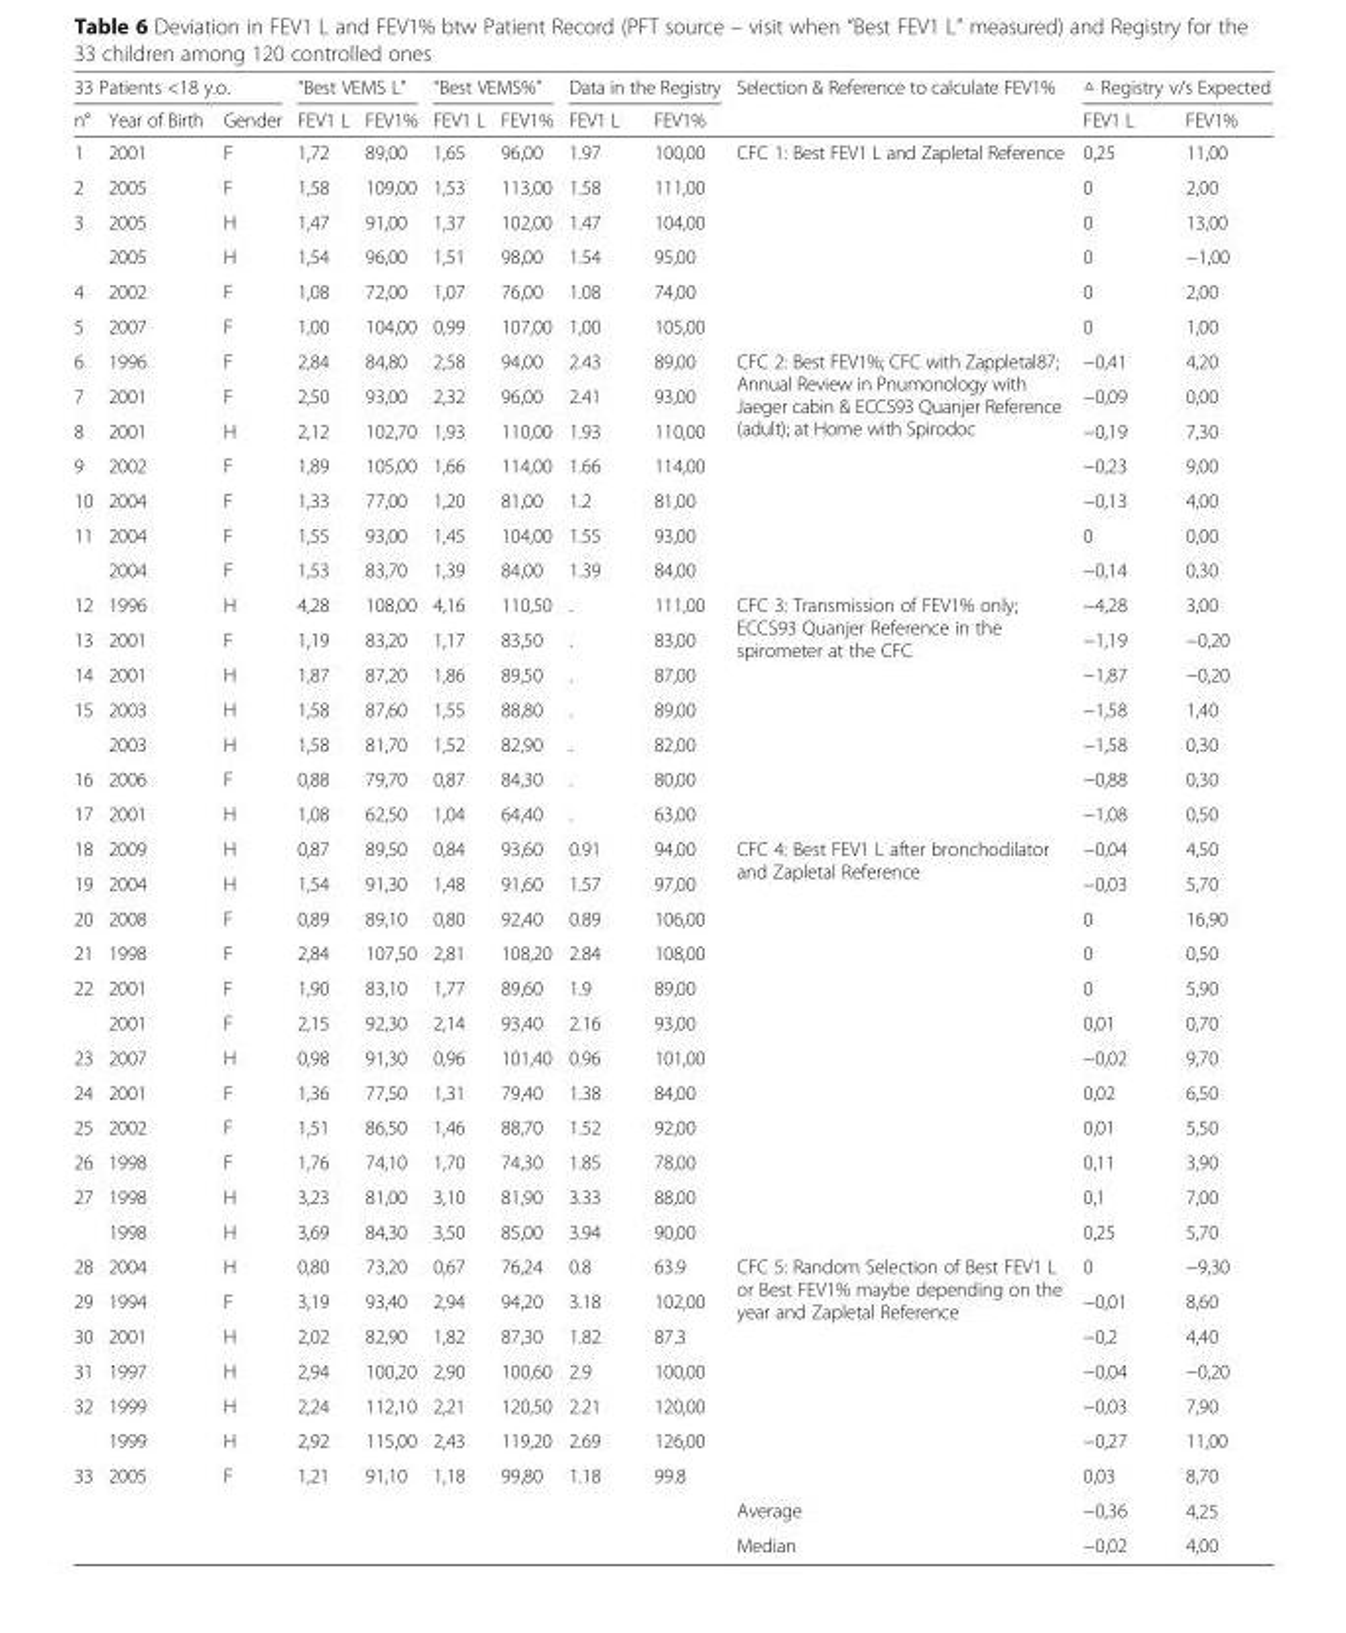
<table><thead><tr><td colspan="3">33 Patients &lt;18 y.o.</td><td colspan="2">“Best VEMS L”</td><td colspan="2">“Best VEMS%”</td><td colspan="2">Data in the Registry</td><td rowspan="2">Selection &amp; Reference to calculate FEV1%</td><td colspan="2">△ Registry v/s Expected</td></tr><tr><td>n°</td><td>Year of Birth</td><td>Gender</td><td>FEV1 L</td><td>FEV1%</td><td>FEV1 L</td><td>FEV1%</td><td>FEV1 L</td><td>FEV1%</td><td>FEV1 L</td><td>FEV1%</td></tr></thead><tbody><tr><td>1</td><td>2001</td><td>F</td><td>1,72</td><td>89,00</td><td>1,65</td><td>96,00</td><td>1.97</td><td>100,00</td><td rowspan="6">CFC 1: Best FEV1 L and Zapletal Reference</td><td>0,25</td><td>11,00</td></tr><tr><td>2</td><td>2005</td><td>F</td><td>1,58</td><td>109,00</td><td>1,53</td><td>113,00</td><td>1.58</td><td>111,00</td><td>0</td><td>2,00</td></tr><tr><td rowspan="2">3</td><td>2005</td><td>H</td><td>1,47</td><td>91,00</td><td>1,37</td><td>102,00</td><td>1.47</td><td>104,00</td><td>0</td><td>13,00</td></tr><tr><td>2005</td><td>H</td><td>1,54</td><td>96,00</td><td>1,51</td><td>98,00</td><td>1.54</td><td>95,00</td><td>0</td><td>−1,00</td></tr><tr><td>4</td><td>2002</td><td>F</td><td>1,08</td><td>72,00</td><td>1,07</td><td>76,00</td><td>1.08</td><td>74,00</td><td>0</td><td>2,00</td></tr><tr><td>5</td><td>2007</td><td>F</td><td>1,00</td><td>104,00</td><td>0,99</td><td>107,00</td><td>1,00</td><td>105,00</td><td>0</td><td>1,00</td></tr><tr><td>6</td><td>1996</td><td>F</td><td>2,84</td><td>84,80</td><td>2,58</td><td>94,00</td><td>2.43</td><td>89,00</td><td rowspan="7">CFC 2: Best FEV1%; CFC with Zappletal87; Annual Review in Pnumonology with Jaeger cabin &amp; ECCS93 Quanjer Reference (adult); at Home with Spirodoc</td><td>−0,41</td><td>4,20</td></tr><tr><td>7</td><td>2001</td><td>F</td><td>2,50</td><td>93,00</td><td>2,32</td><td>96,00</td><td>2.41</td><td>93,00</td><td>−0,09</td><td>0,00</td></tr><tr><td>8</td><td>2001</td><td>H</td><td>2,12</td><td>102,70</td><td>1,93</td><td>110,00</td><td>1.93</td><td>110,00</td><td>−0,19</td><td>7,30</td></tr><tr><td>9</td><td>2002</td><td>F</td><td>1,89</td><td>105,00</td><td>1,66</td><td>114,00</td><td>1.66</td><td>114,00</td><td>−0,23</td><td>9,00</td></tr><tr><td>10</td><td>2004</td><td>F</td><td>1,33</td><td>77,00</td><td>1,20</td><td>81,00</td><td>1.2</td><td>81,00</td><td>−0,13</td><td>4,00</td></tr><tr><td rowspan="2">11</td><td>2004</td><td>F</td><td>1,55</td><td>93,00</td><td>1,45</td><td>104,00</td><td>1.55</td><td>93,00</td><td>0</td><td>0,00</td></tr><tr><td>2004</td><td>F</td><td>1,53</td><td>83,70</td><td>1,39</td><td>84,00</td><td>1.39</td><td>84,00</td><td>−0,14</td><td>0,30</td></tr><tr><td>12</td><td>1996</td><td>H</td><td>4,28</td><td>108,00</td><td>4,16</td><td>110,50</td><td>.</td><td>111,00</td><td rowspan="7">CFC 3: Transmission of FEV1% only; ECCS93 Quanjer Reference in the spirometer at the CFC</td><td>−4,28</td><td>3,00</td></tr><tr><td>13</td><td>2001</td><td>F</td><td>1,19</td><td>83,20</td><td>1,17</td><td>83,50</td><td>.</td><td>83,00</td><td>−1,19</td><td>−0,20</td></tr><tr><td>14</td><td>2001</td><td>H</td><td>1,87</td><td>87,20</td><td>1,86</td><td>89,50</td><td>.</td><td>87,00</td><td>−1,87</td><td>−0,20</td></tr><tr><td rowspan="2">15</td><td>2003</td><td>H</td><td>1,58</td><td>87,60</td><td>1,55</td><td>88,80</td><td>.</td><td>89,00</td><td>−1,58</td><td>1,40</td></tr><tr><td>2003</td><td>H</td><td>1,58</td><td>81,70</td><td>1,52</td><td>82,90</td><td>.</td><td>82,00</td><td>−1,58</td><td>0,30</td></tr><tr><td>16</td><td>2006</td><td>F</td><td>0,88</td><td>79,70</td><td>0,87</td><td>84,30</td><td>.</td><td>80,00</td><td>−0,88</td><td>0,30</td></tr><tr><td>17</td><td>2001</td><td>H</td><td>1,08</td><td>62,50</td><td>1,04</td><td>64,40</td><td>.</td><td>63,00</td><td>−1,08</td><td>0,50</td></tr><tr><td>18</td><td>2009</td><td>H</td><td>0,87</td><td>89,50</td><td>0,84</td><td>93,60</td><td>0.91</td><td>94,00</td><td rowspan="12">CFC 4: Best FEV1 L after bronchodilator and Zapletal Reference</td><td>−0,04</td><td>4,50</td></tr><tr><td>19</td><td>2004</td><td>H</td><td>1,54</td><td>91,30</td><td>1,48</td><td>91,60</td><td>1.57</td><td>97,00</td><td>−0,03</td><td>5,70</td></tr><tr><td>20</td><td>2008</td><td>F</td><td>0,89</td><td>89,10</td><td>0,80</td><td>92,40</td><td>0.89</td><td>106,00</td><td>0</td><td>16,90</td></tr><tr><td>21</td><td>1998</td><td>F</td><td>2,84</td><td>107,50</td><td>2,81</td><td>108,20</td><td>2.84</td><td>108,00</td><td>0</td><td>0,50</td></tr><tr><td rowspan="2">22</td><td>2001</td><td>F</td><td>1,90</td><td>83,10</td><td>1,77</td><td>89,60</td><td>1.9</td><td>89,00</td><td>0</td><td>5,90</td></tr><tr><td>2001</td><td>F</td><td>2,15</td><td>92,30</td><td>2,14</td><td>93,40</td><td>2.16</td><td>93,00</td><td>0,01</td><td>0,70</td></tr><tr><td>23</td><td>2007</td><td>H</td><td>0,98</td><td>91,30</td><td>0,96</td><td>101,40</td><td>0.96</td><td>101,00</td><td>−0,02</td><td>9,70</td></tr><tr><td>24</td><td>2001</td><td>F</td><td>1,36</td><td>77,50</td><td>1,31</td><td>79,40</td><td>1.38</td><td>84,00</td><td>0,02</td><td>6,50</td></tr><tr><td>25</td><td>2002</td><td>F</td><td>1,51</td><td>86,50</td><td>1,46</td><td>88,70</td><td>1.52</td><td>92,00</td><td>0,01</td><td>5,50</td></tr><tr><td>26</td><td>1998</td><td>F</td><td>1,76</td><td>74,10</td><td>1,70</td><td>74,30</td><td>1.85</td><td>78,00</td><td>0,11</td><td>3,90</td></tr><tr><td rowspan="2">27</td><td>1998</td><td>H</td><td>3,23</td><td>81,00</td><td>3,10</td><td>81,90</td><td>3.33</td><td>88,00</td><td>0,1</td><td>7,00</td></tr><tr><td>1998</td><td>H</td><td>3,69</td><td>84,30</td><td>3,50</td><td>85,00</td><td>3.94</td><td>90,00</td><td>0,25</td><td>5,70</td></tr><tr><td>28</td><td>2004</td><td>H</td><td>0,80</td><td>73,20</td><td>0,67</td><td>76,24</td><td>0.8</td><td>63.9</td><td rowspan="7">CFC 5: Random Selection of Best FEV1 L or Best FEV1% maybe depending on the year and Zapletal Reference</td><td>0</td><td>−9,30</td></tr><tr><td>29</td><td>1994</td><td>F</td><td>3,19</td><td>93,40</td><td>2,94</td><td>94,20</td><td>3.18</td><td>102,00</td><td>−0,01</td><td>8,60</td></tr><tr><td>30</td><td>2001</td><td>H</td><td>2,02</td><td>82,90</td><td>1,82</td><td>87,30</td><td>1.82</td><td>87.3</td><td>−0,2</td><td>4,40</td></tr><tr><td>31</td><td>1997</td><td>H</td><td>2,94</td><td>100,20</td><td>2,90</td><td>100,60</td><td>2.9</td><td>100,00</td><td>−0,04</td><td>−0,20</td></tr><tr><td rowspan="2">32</td><td>1999</td><td>H</td><td>2,24</td><td>112,10</td><td>2,21</td><td>120,50</td><td>2.21</td><td>120,00</td><td>−0,03</td><td>7,90</td></tr><tr><td>1999</td><td>H</td><td>2,92</td><td>115,00</td><td>2,43</td><td>119,20</td><td>2.69</td><td>126,00</td><td>−0,27</td><td>11,00</td></tr><tr><td rowspan="3">33</td><td>2005</td><td>F</td><td>1,21</td><td>91,10</td><td>1,18</td><td>99,80</td><td>1.18</td><td>99.8</td><td>0,03</td><td>8,70</td></tr><tr><td></td><td></td><td></td><td></td><td></td><td></td><td></td><td></td><td>Average</td><td>−0,36</td><td>4,25</td></tr><tr><td></td><td></td><td></td><td></td><td></td><td></td><td></td><td></td><td>Median</td><td>−0,02</td><td>4,00</td></tr></tbody></table>